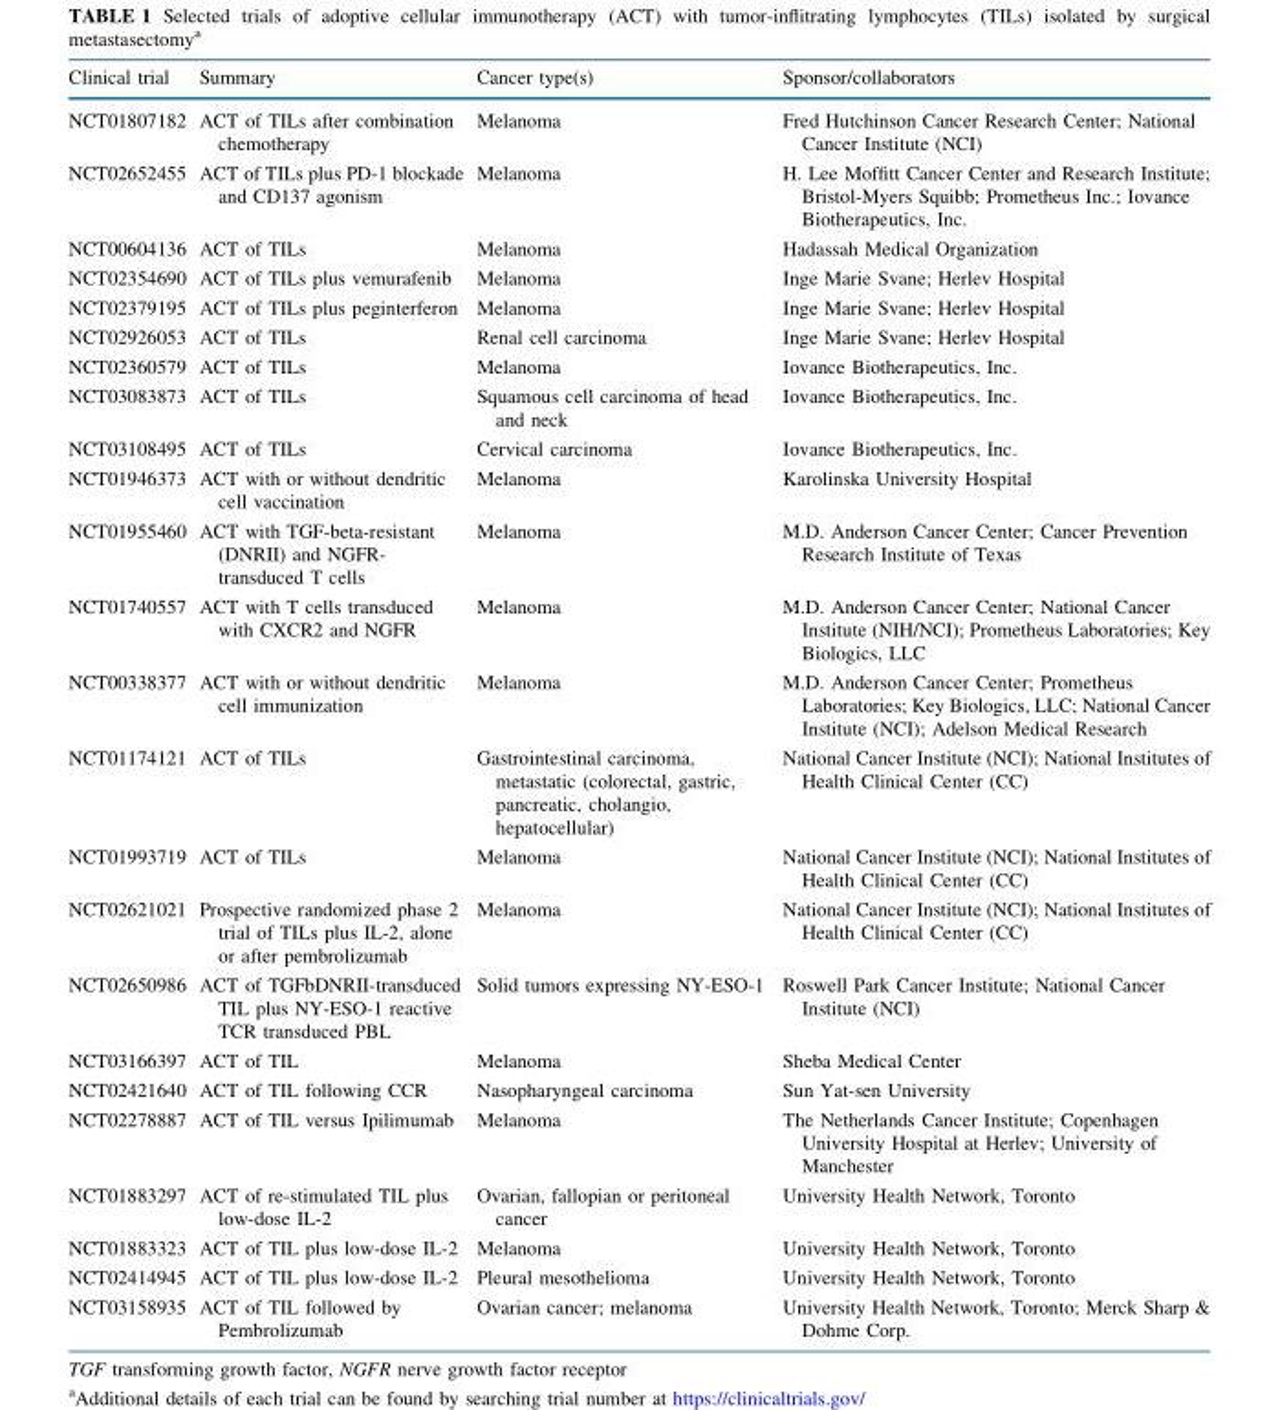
<table><thead><tr><td>Clinical trial</td><td>Summary</td><td>Cancer type(s)</td><td>Sponsor/collaborators</td></tr></thead><tbody><tr><td>NCT01807182</td><td>ACT of TILs after combination chemotherapy</td><td>Melanoma</td><td>Fred Hutchinson Cancer Research Center; National Cancer Institute (NCI)</td></tr><tr><td>NCT02652455</td><td>ACT of TILs plus PD-1 blockade and CD137 agonism</td><td>Melanoma</td><td>H. Lee Moffitt Cancer Center and Research Institute; Bristol-Myers Squibb; Prometheus Inc.; Iovance Biotherapeutics, Inc.</td></tr><tr><td>NCT00604136</td><td>ACT of TILs</td><td>Melanoma</td><td>Hadassah Medical Organization</td></tr><tr><td>NCT02354690</td><td>ACT of TILs plus vemurafenib</td><td>Melanoma</td><td>Inge Marie Svane; Herlev Hospital</td></tr><tr><td>NCT02379195</td><td>ACT of TILs plus peginterferon</td><td>Melanoma</td><td>Inge Marie Svane; Herlev Hospital</td></tr><tr><td>NCT02926053</td><td>ACT of TILs</td><td>Renal cell carcinoma</td><td>Inge Marie Svane; Herlev Hospital</td></tr><tr><td>NCT02360579</td><td>ACT of TILs</td><td>Melanoma</td><td>Iovance Biotherapeutics, Inc.</td></tr><tr><td>NCT03083873</td><td>ACT of TILs</td><td>Squamous cell carcinoma of head and neck</td><td>Iovance Biotherapeutics, Inc.</td></tr><tr><td>NCT03108495</td><td>ACT of TILs</td><td>Cervical carcinoma</td><td>Iovance Biotherapeutics, Inc.</td></tr><tr><td>NCT01946373</td><td>ACT with or without dendritic cell vaccination</td><td>Melanoma</td><td>Karolinska University Hospital</td></tr><tr><td>NCT01955460</td><td>ACT with TGF-beta-resistant (DNRII) and NGFR- transduced T cells</td><td>Melanoma</td><td>M.D. Anderson Cancer Center; Cancer Prevention Research Institute of Texas</td></tr><tr><td>NCT01740557</td><td>ACT with T cells transduced with CXCR2 and NGFR</td><td>Melanoma</td><td>M.D. Anderson Cancer Center; National Cancer Institute (NIH/NCI); Prometheus Laboratories; Key Biologics, LLC</td></tr><tr><td>NCT00338377</td><td>ACT with or without dendritic cell immunization</td><td>Melanoma</td><td>M.D. Anderson Cancer Center; Prometheus Laboratories; Key Biologics, LLC; National Cancer Institute (NCI); Adelson Medical Research</td></tr><tr><td>NCT01174121</td><td>ACT of TILs</td><td>Gastrointestinal carcinoma, metastatic (colorectal, gastric, pancreatic, cholangio, hepatocellular)</td><td>National Cancer Institute (NCI); National Institutes of Health Clinical Center (CC)</td></tr><tr><td>NCT01993719</td><td>ACT of TILs</td><td>Melanoma</td><td>National Cancer Institute (NCI); National Institutes of Health Clinical Center (CC)</td></tr><tr><td>NCT02621021</td><td>Prospective randomized phase 2 trial of TILs plus IL-2, alone or after pembrolizumab</td><td>Melanoma</td><td>National Cancer Institute (NCI); National Institutes of Health Clinical Center (CC)</td></tr><tr><td>NCT02650986</td><td>ACT of TGFbDNRII-transduced TIL plus NY-ESO-1 reactive TCR transduced PBL</td><td>Solid tumors expressing NY-ESO-1</td><td>Roswell Park Cancer Institute; National Cancer Institute (NCI)</td></tr><tr><td>NCT03166397</td><td>ACT of TIL</td><td>Melanoma</td><td>Sheba Medical Center</td></tr><tr><td>NCT02421640</td><td>ACT of TIL following CCR</td><td>Nasopharyngeal carcinoma</td><td>Sun Yat-sen University</td></tr><tr><td>NCT02278887</td><td>ACT of TIL versus Ipilimumab</td><td>Melanoma</td><td>The Netherlands Cancer Institute; Copenhagen University Hospital at Herlev; University of Manchester</td></tr><tr><td>NCT01883297</td><td>ACT of re-stimulated TIL plus low-dose IL-2</td><td>Ovarian, fallopian or peritoneal cancer</td><td>University Health Network, Toronto</td></tr><tr><td>NCT01883323</td><td>ACT of TIL plus low-dose IL-2</td><td>Melanoma</td><td>University Health Network, Toronto</td></tr><tr><td>NCT02414945</td><td>ACT of TIL plus low-dose IL-2</td><td>Pleural mesothelioma</td><td>University Health Network, Toronto</td></tr><tr><td>NCT03158935</td><td>ACT of TIL followed by Pembrolizumab</td><td>Ovarian cancer; melanoma</td><td>University Health Network, Toronto; Merck Sharp &amp; Dohme Corp.</td></tr></tbody></table>